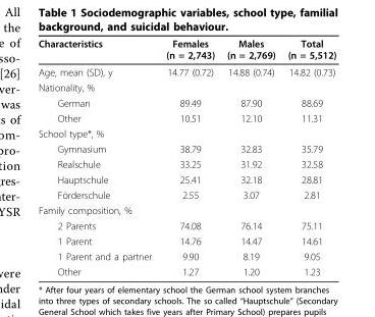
<table><thead><tr><td>Characteristics</td><td>Females (n = 2,743)</td><td>Males (n = 2,769)</td><td>Total (n = 5,512)</td></tr></thead><tbody><tr><td>Age, mean (SD), y</td><td>14.77 (0.72)</td><td>14.88 (0.74)</td><td>14.82 (0.73)</td></tr><tr><td colspan="4">Nationality, %</td></tr><tr><td>German</td><td>89.49</td><td>87.90</td><td>88.69</td></tr><tr><td>Other</td><td>10.51</td><td>12.10</td><td>11.31</td></tr><tr><td colspan="4">School type*, %</td></tr><tr><td>Gymnasium</td><td>38.79</td><td>32.83</td><td>35.79</td></tr><tr><td>Realschule</td><td>33.25</td><td>31.92</td><td>32.58</td></tr><tr><td>Hauptschule</td><td>25.41</td><td>32.18</td><td>28.81</td></tr><tr><td>Förderschule</td><td>2.55</td><td>3.07</td><td>2.81</td></tr><tr><td colspan="4">Family composition, %</td></tr><tr><td>2 Parents</td><td>74.08</td><td>76.14</td><td>75.11</td></tr><tr><td>1 Parent</td><td>14.76</td><td>14.47</td><td>14.61</td></tr><tr><td>1 Parent and a partner</td><td>9.90</td><td>8.19</td><td>9.05</td></tr><tr><td>Other</td><td>1.27</td><td>1.20</td><td>1.23</td></tr></tbody></table>